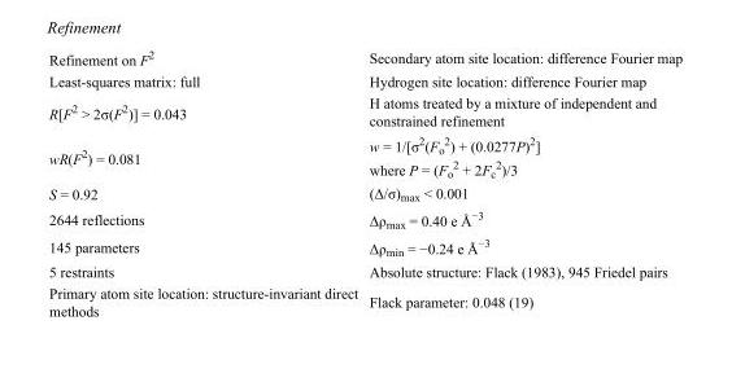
<table><tbody><tr><td>Refinement on F<sup>2</sup></td><td>Secondary atom site location: difference Fourier map</td></tr><tr><td>Least-squares matrix: full</td><td>Hydrogen site location: difference Fourier map</td></tr><tr><td>R[F<sup>2</sup> &gt; 2σ(F<sup>2</sup>)] = 0.043</td><td>H atoms treated by a mixture of independent and constrained refinement</td></tr><tr><td>wR(F<sup>2</sup>) = 0.081</td><td>w = 1/[σ<sup>2</sup>(F<sub>o</sub> <sup>2</sup>) + (0.0277P)<sup>2</sup>] where P = (F<sub>o</sub> <sup>2</sup> + 2F<sub>c</sub> <sup>2</sup>)/3</td></tr><tr><td>S = 0.92</td><td>(Δ/σ)<sub>max</sub> &lt; 0.001</td></tr><tr><td>2644 reflections</td><td>Δρ<sub>max</sub> = 0.40 e Å<sup>−3</sup></td></tr><tr><td>145 parameters</td><td>Δρ<sub>min</sub> = −0.24 e Å<sup>−3</sup></td></tr><tr><td>5 restraints</td><td>Absolute structure: Flack (1983), 945 Friedel pairs</td></tr><tr><td>Primary atom site location: structure-invariant direct methods</td><td>Flack parameter: 0.048 (19)</td></tr></tbody></table>